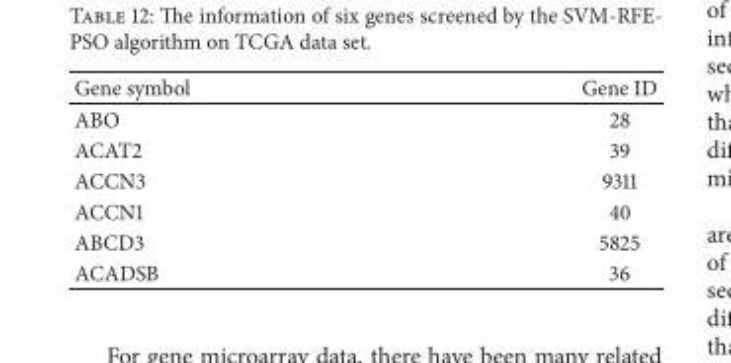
<table><thead><tr><td>Gene symbol</td><td>Gene ID</td></tr></thead><tbody><tr><td>ABO</td><td>28</td></tr><tr><td>ACAT2</td><td>39</td></tr><tr><td>ACCN3</td><td>9311</td></tr><tr><td>ACCN1</td><td>40</td></tr><tr><td>ABCD3</td><td>5825</td></tr><tr><td>ACADSB</td><td>36</td></tr></tbody></table>